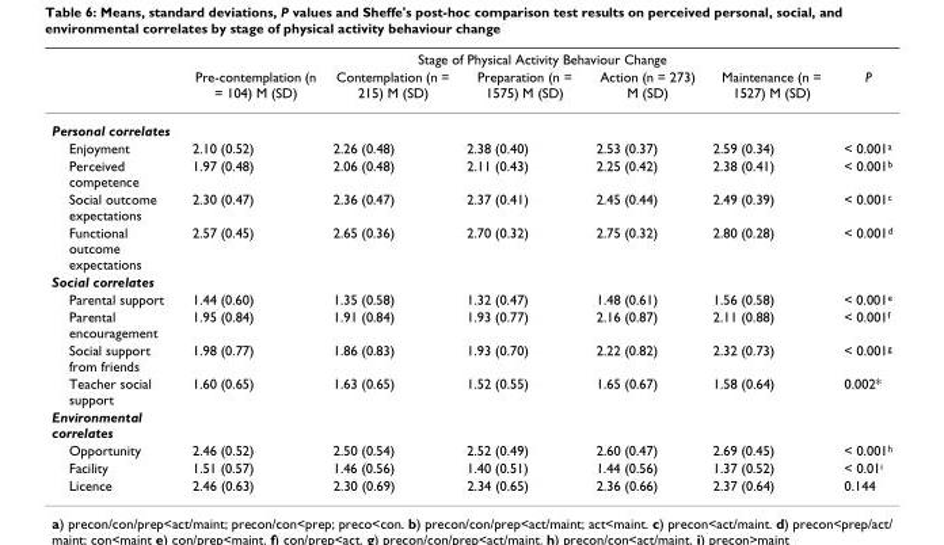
<table><thead><tr><td rowspan="2"></td><td colspan="6">Stage of Physical Activity Behaviour Change</td></tr><tr><td>Pre-contemplation (n = 104) M (SD)</td><td>Contemplation (n = 215) M (SD)</td><td>Preparation (n = 1575) M (SD)</td><td>Action (n = 273) M (SD)</td><td>Maintenance (n = 1527) M (SD)</td><td>P</td></tr></thead><tbody><tr><td colspan="7">Personal correlates</td></tr><tr><td>Enjoyment</td><td>2.10 (0.52)</td><td>2.26 (0.48)</td><td>2.38 (0.40)</td><td>2.53 (0.37)</td><td>2.59 (0.34)</td><td>&lt; 0.001<sup>a</sup></td></tr><tr><td>Perceived competence</td><td>1.97 (0.48)</td><td>2.06 (0.48)</td><td>2.11 (0.43)</td><td>2.25 (0.42)</td><td>2.38 (0.41)</td><td>&lt; 0.001<sup>b</sup></td></tr><tr><td>Social outcome expectations</td><td>2.30 (0.47)</td><td>2.36 (0.47)</td><td>2.37 (0.41)</td><td>2.45 (0.44)</td><td>2.49 (0.39)</td><td>&lt; 0.001<sup>c</sup></td></tr><tr><td>Functional outcome expectations</td><td>2.57 (0.45)</td><td>2.65 (0.36)</td><td>2.70 (0.32)</td><td>2.75 (0.32)</td><td>2.80 (0.28)</td><td>&lt; 0.001<sup>d</sup></td></tr><tr><td colspan="7">Social correlates</td></tr><tr><td>Parental support</td><td>1.44 (0.60)</td><td>1.35 (0.58)</td><td>1.32 (0.47)</td><td>1.48 (0.61)</td><td>1.56 (0.58)</td><td>&lt; 0.001<sup>e</sup></td></tr><tr><td>Parental encouragement</td><td>1.95 (0.84)</td><td>1.91 (0.84)</td><td>1.93 (0.77)</td><td>2.16 (0.87)</td><td>2.11 (0.88)</td><td>&lt; 0.001<sup>f</sup></td></tr><tr><td>Social support from friends</td><td>1.98 (0.77)</td><td>1.86 (0.83)</td><td>1.93 (0.70)</td><td>2.22 (0.82)</td><td>2.32 (0.73)</td><td>&lt; 0.001<sup>g</sup></td></tr><tr><td>Teacher social support</td><td>1.60 (0.65)</td><td>1.63 (0.65)</td><td>1.52 (0.55)</td><td>1.65 (0.67)</td><td>1.58 (0.64)</td><td>0.002*</td></tr><tr><td colspan="7">Environmental correlates</td></tr><tr><td>Opportunity</td><td>2.46 (0.52)</td><td>2.50 (0.54)</td><td>2.52 (0.49)</td><td>2.60 (0.47)</td><td>2.69 (0.45)</td><td>&lt; 0.001<sup>h</sup></td></tr><tr><td>Facility</td><td>1.51 (0.57)</td><td>1.46 (0.56)</td><td>1.40 (0.51)</td><td>1.44 (0.56)</td><td>1.37 (0.52)</td><td>&lt; 0.01<sup>i</sup></td></tr><tr><td>Licence</td><td>2.46 (0.63)</td><td>2.30 (0.69)</td><td>2.34 (0.65)</td><td>2.36 (0.66)</td><td>2.37 (0.64)</td><td>0.144</td></tr></tbody></table>